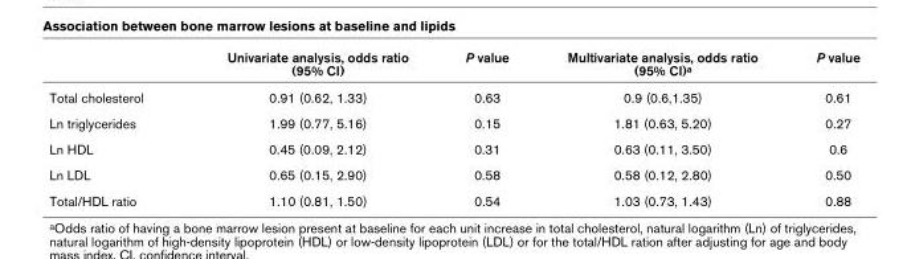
<table><thead><tr><td></td><td>Univariate analysis, odds ratio (95% CI)</td><td>P value</td><td>Multivariate analysis, odds ratio (95% CI)<sup>a</sup></td><td>P value</td></tr></thead><tbody><tr><td>Total cholesterol</td><td>0.91 (0.62, 1.33)</td><td>0.63</td><td>0.9 (0.6,1.35)</td><td>0.61</td></tr><tr><td>Ln triglycerides</td><td>1.99 (0.77, 5.16)</td><td>0.15</td><td>1.81 (0.63, 5.20)</td><td>0.27</td></tr><tr><td>Ln HDL</td><td>0.45 (0.09, 2.12)</td><td>0.31</td><td>0.63 (0.11, 3.50)</td><td>0.6</td></tr><tr><td>Ln LDL</td><td>0.65 (0.15, 2.90)</td><td>0.58</td><td>0.58 (0.12, 2.80)</td><td>0.50</td></tr><tr><td>Total/HDL ratio</td><td>1.10 (0.81, 1.50)</td><td>0.54</td><td>1.03 (0.73, 1.43)</td><td>0.88</td></tr></tbody></table>